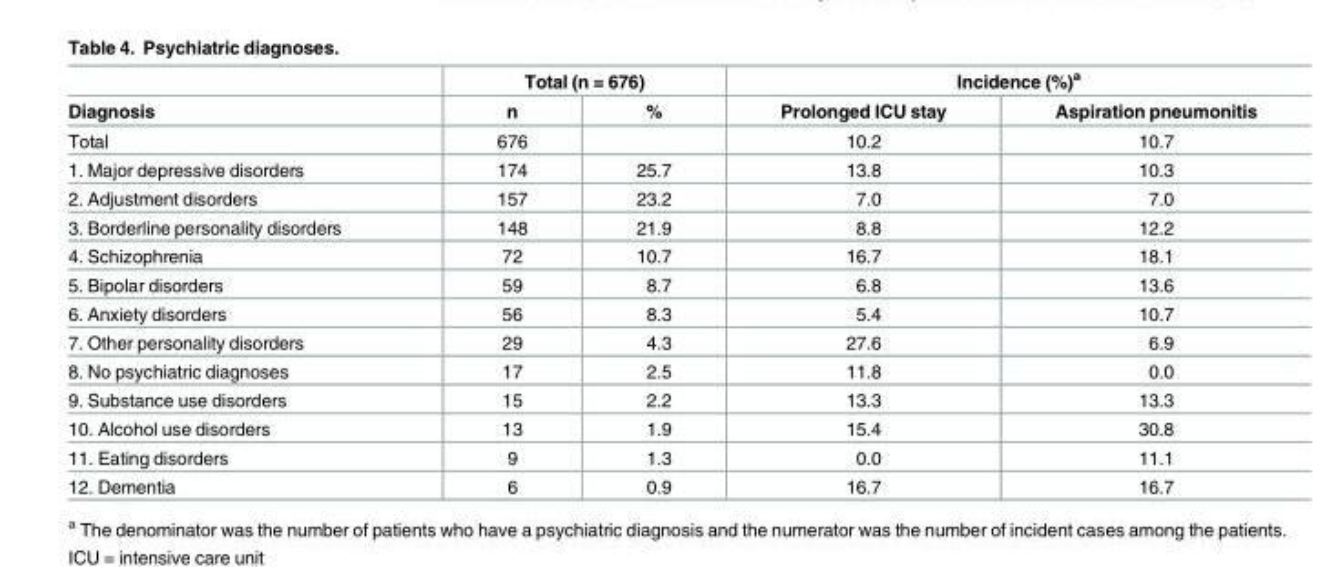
<table><thead><tr><td rowspan="2">Diagnosis</td><td colspan="2">Total (n = 676)</td><td colspan="2">Incidence (%)<sup>a</sup></td></tr><tr><td>n</td><td>%</td><td>Prolonged ICU stay</td><td>Aspiration pneumonitis</td></tr></thead><tbody><tr><td>Total</td><td>676</td><td></td><td>10.2</td><td>10.7</td></tr><tr><td>1. Major depressive disorders</td><td>174</td><td>25.7</td><td>13.8</td><td>10.3</td></tr><tr><td>2. Adjustment disorders</td><td>157</td><td>23.2</td><td>7.0</td><td>7.0</td></tr><tr><td>3. Borderline personality disorders</td><td>148</td><td>21.9</td><td>8.8</td><td>12.2</td></tr><tr><td>4. Schizophrenia</td><td>72</td><td>10.7</td><td>16.7</td><td>18.1</td></tr><tr><td>5. Bipolar disorders</td><td>59</td><td>8.7</td><td>6.8</td><td>13.6</td></tr><tr><td>6. Anxiety disorders</td><td>56</td><td>8.3</td><td>5.4</td><td>10.7</td></tr><tr><td>7. Other personality disorders</td><td>29</td><td>4.3</td><td>27.6</td><td>6.9</td></tr><tr><td>8. No psychiatric diagnoses</td><td>17</td><td>2.5</td><td>11.8</td><td>0.0</td></tr><tr><td>9. Substance use disorders</td><td>15</td><td>2.2</td><td>13.3</td><td>13.3</td></tr><tr><td>10. Alcohol use disorders</td><td>13</td><td>1.9</td><td>15.4</td><td>30.8</td></tr><tr><td>11. Eating disorders</td><td>9</td><td>1.3</td><td>0.0</td><td>11.1</td></tr><tr><td>12. Dementia</td><td>6</td><td>0.9</td><td>16.7</td><td>16.7</td></tr></tbody></table>